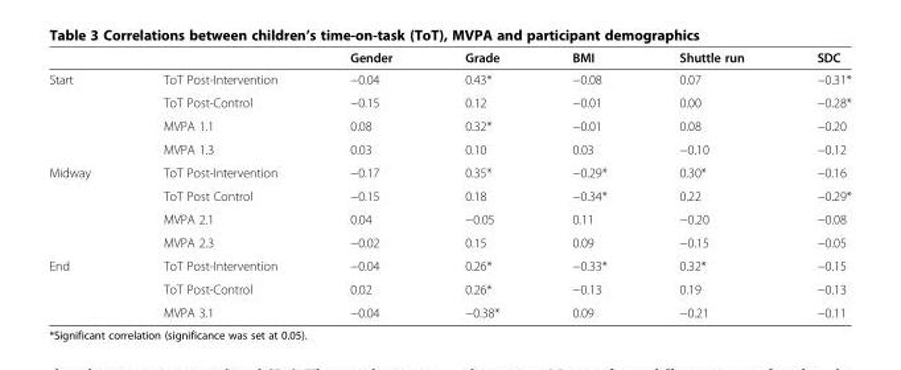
<table><thead><tr><td></td><td></td><td>Gender</td><td>Grade</td><td>BMI</td><td>Shuttle run</td><td>SDC</td></tr></thead><tbody><tr><td rowspan="4">Start</td><td>ToT Post-Intervention</td><td>−0.04</td><td>0.43*</td><td>−0.08</td><td>0.07</td><td>−0.31*</td></tr><tr><td>ToT Post-Control</td><td>−0.15</td><td>0.12</td><td>−0.01</td><td>0.00</td><td>−0.28*</td></tr><tr><td>MVPA 1.1</td><td>0.08</td><td>0.32*</td><td>−0.01</td><td>0.08</td><td>−0.20</td></tr><tr><td>MVPA 1.3</td><td>0.03</td><td>0.10</td><td>0.03</td><td>−0.10</td><td>−0.12</td></tr><tr><td rowspan="4">Midway</td><td>ToT Post-Intervention</td><td>−0.17</td><td>0.35*</td><td>−0.29*</td><td>0.30*</td><td>−0.16</td></tr><tr><td>ToT Post Control</td><td>−0.15</td><td>0.18</td><td>−0.34*</td><td>0.22</td><td>−0.29*</td></tr><tr><td>MVPA 2.1</td><td>0.04</td><td>−0.05</td><td>0.11</td><td>−0.20</td><td>−0.08</td></tr><tr><td>MVPA 2.3</td><td>−0.02</td><td>0.15</td><td>0.09</td><td>−0.15</td><td>−0.05</td></tr><tr><td rowspan="3">End</td><td>ToT Post-Intervention</td><td>−0.04</td><td>0.26*</td><td>−0.33*</td><td>0.32*</td><td>−0.15</td></tr><tr><td>ToT Post-Control</td><td>0.02</td><td>0.26*</td><td>−0.13</td><td>0.19</td><td>−0.13</td></tr><tr><td>MVPA 3.1</td><td>−0.04</td><td>−0.38*</td><td>0.09</td><td>−0.21</td><td>−0.11</td></tr></tbody></table>